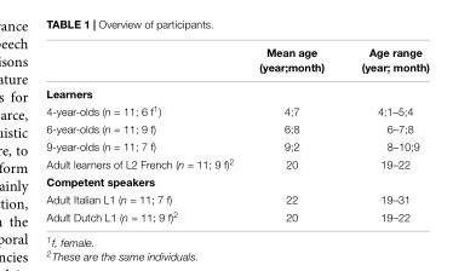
<table><thead><tr><td></td><td>Mean age (year;month)</td><td>Age range (year; month)</td></tr></thead><tbody><tr><td colspan="3">Learners</td></tr><tr><td>4-year-olds (n = 11; 6 f<sup>1</sup>)</td><td>4;7</td><td>4;1–5;4</td></tr><tr><td>6-year-olds (n = 11; 9 f)</td><td>6;8</td><td>6–7;8</td></tr><tr><td>9-year-olds (n = 11; 7 f)</td><td>9;2</td><td>8–10;9</td></tr><tr><td>Adult learners of L2 French (n = 11; 9 f)<sup>2</sup></td><td>20</td><td>19–22</td></tr><tr><td colspan="3">Competent speakers</td></tr><tr><td>Adult Italian L1 (n = 11; 7 f)</td><td>22</td><td>19–31</td></tr><tr><td>Adult Dutch L1 (n = 11; 9 f)<sup>2</sup></td><td>20</td><td>19–22</td></tr></tbody></table>